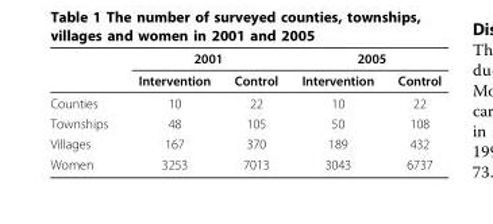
<table><thead><tr><td rowspan="2"></td><td colspan="2">2001</td><td colspan="2">2005</td></tr><tr><td>Intervention</td><td>Control</td><td>Intervention</td><td>Control</td></tr></thead><tbody><tr><td>Counties</td><td>10</td><td>22</td><td>10</td><td>22</td></tr><tr><td>Townships</td><td>48</td><td>105</td><td>50</td><td>108</td></tr><tr><td>Villages</td><td>167</td><td>370</td><td>189</td><td>432</td></tr><tr><td>Women</td><td>3253</td><td>7013</td><td>3043</td><td>6737</td></tr></tbody></table>